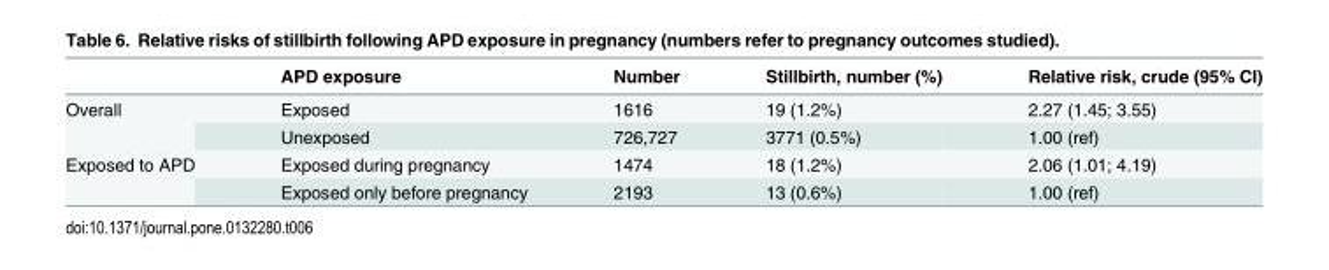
<table><thead><tr><td></td><td>APD exposure</td><td>Number</td><td>Stillbirth, number (%)</td><td>Relative risk, crude (95% CI)</td></tr></thead><tbody><tr><td rowspan="2">Overall</td><td>Exposed</td><td>1616</td><td>19 (1.2%)</td><td>2.27 (1.45; 3.55)</td></tr><tr><td>Unexposed</td><td>726,727</td><td>3771 (0.5%)</td><td>1.00 (ref)</td></tr><tr><td rowspan="2">Exposed to APD</td><td>Exposed during pregnancy</td><td>1474</td><td>18 (1.2%)</td><td>2.06 (1.01; 4.19)</td></tr><tr><td>Exposed only before pregnancy</td><td>2193</td><td>13 (0.6%)</td><td>1.00 (ref)</td></tr></tbody></table>